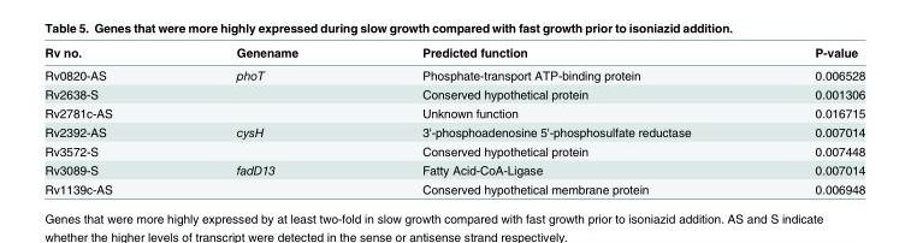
<table><thead><tr><td>Rv no.</td><td>Genename</td><td>Predicted function</td><td>P-value</td></tr></thead><tbody><tr><td>Rv0820-AS</td><td>phoT</td><td>Phosphate-transport ATP-binding protein</td><td>0.006528</td></tr><tr><td>Rv2638-S</td><td></td><td>Conserved hypothetical protein</td><td>0.001306</td></tr><tr><td>Rv2781c-AS</td><td></td><td>Unknown function</td><td>0.016715</td></tr><tr><td>Rv2392-AS</td><td>cysH</td><td>3&#x27;-phosphoadenosine 5&#x27;-phosphosulfate reductase</td><td>0.007014</td></tr><tr><td>Rv3572-S</td><td></td><td>Conserved hypothetical protein</td><td>0.007448</td></tr><tr><td>Rv3089-S</td><td>fadD13</td><td>Fatty Acid-CoA-Ligase</td><td>0.007014</td></tr><tr><td>Rv1139c-AS</td><td></td><td>Conserved hypothetical membrane protein</td><td>0.006948</td></tr></tbody></table>